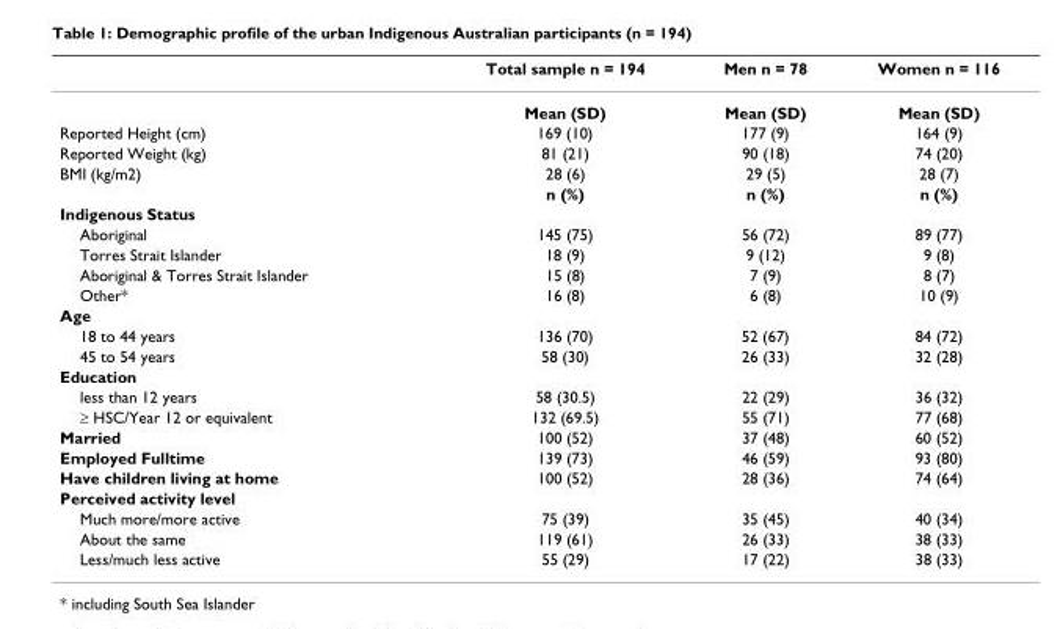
<table><thead><tr><td></td><td>Total sample n = 194</td><td>Men n = 78</td><td>Women n = 116</td></tr></thead><tbody><tr><td></td><td>Mean (SD)</td><td>Mean (SD)</td><td>Mean (SD)</td></tr><tr><td>Reported Height (cm)</td><td>169 (10)</td><td>177 (9)</td><td>164 (9)</td></tr><tr><td>Reported Weight (kg)</td><td>81 (21)</td><td>90 (18)</td><td>74 (20)</td></tr><tr><td rowspan="2">BMI (kg/m2)</td><td>28 (6)</td><td>29 (5)</td><td>28 (7)</td></tr><tr><td>n (%)</td><td>n (%)</td><td>n (%)</td></tr><tr><td colspan="4">Indigenous Status</td></tr><tr><td>Aboriginal</td><td>145 (75)</td><td>56 (72)</td><td>89 (77)</td></tr><tr><td>Torres Strait Islander</td><td>18 (9)</td><td>9 (12)</td><td>9 (8)</td></tr><tr><td>Aboriginal &amp; Torres Strait Islander</td><td>15 (8)</td><td>7 (9)</td><td>8 (7)</td></tr><tr><td>Other*</td><td>16 (8)</td><td>6 (8)</td><td>10 (9)</td></tr><tr><td colspan="4">Age</td></tr><tr><td>18 to 44 years</td><td>136 (70)</td><td>52 (67)</td><td>84 (72)</td></tr><tr><td>45 to 54 years</td><td>58 (30)</td><td>26 (33)</td><td>32 (28)</td></tr><tr><td colspan="4">Education</td></tr><tr><td>less than 12 years</td><td>58 (30.5)</td><td>22 (29)</td><td>36 (32)</td></tr><tr><td>≥ HSC/Year 12 or equivalent</td><td>132 (69.5)</td><td>55 (71)</td><td>77 (68)</td></tr><tr><td>Married</td><td>100 (52)</td><td>37 (48)</td><td>60 (52)</td></tr><tr><td>Employed Fulltime</td><td>139 (73)</td><td>46 (59)</td><td>93 (80)</td></tr><tr><td>Have children living at home</td><td>100 (52)</td><td>28 (36)</td><td>74 (64)</td></tr><tr><td colspan="4">Perceived activity level</td></tr><tr><td>Much more/more active</td><td>75 (39)</td><td>35 (45)</td><td>40 (34)</td></tr><tr><td>About the same</td><td>119 (61)</td><td>26 (33)</td><td>38 (33)</td></tr><tr><td>Less/much less active</td><td>55 (29)</td><td>17 (22)</td><td>38 (33)</td></tr></tbody></table>